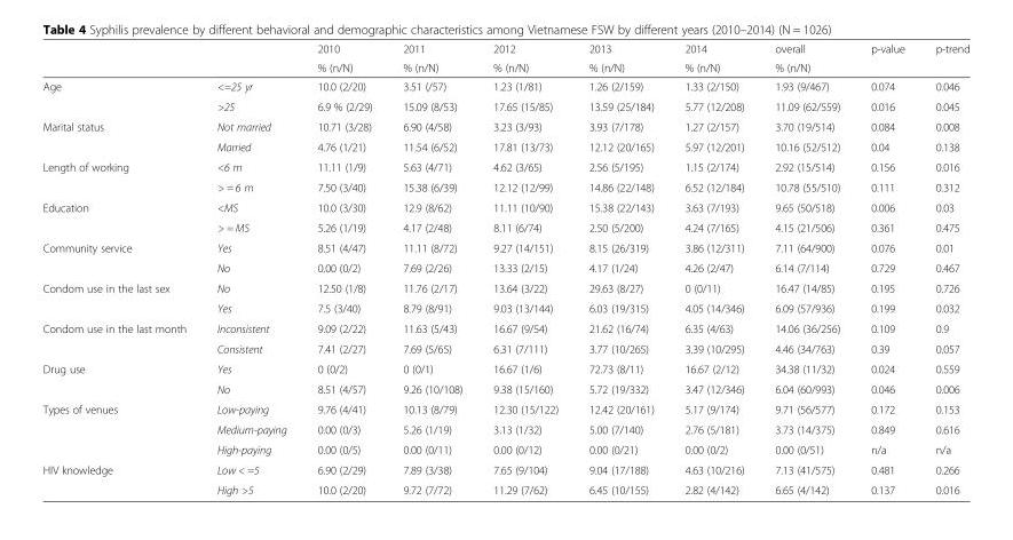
<table><thead><tr><td rowspan="2"></td><td rowspan="2"></td><td rowspan="2">2010 % (n/N)</td><td rowspan="2">2011 % (n/N)</td><td rowspan="2">2012 % (n/N)</td><td rowspan="2">2013 % (n/N)</td><td rowspan="2">2014 % (n/N)</td><td rowspan="2">overall % (n/N)</td><td rowspan="2">p-value</td><td rowspan="2">p-trend</td></tr><tr></tr></thead><tbody><tr><td rowspan="2">Age</td><td>&lt;=25 yr</td><td>10.0 (2/20)</td><td>3.51 (/57)</td><td>1.23 (1/81)</td><td>1.26 (2/159)</td><td>1.33 (2/150)</td><td>1.93 (9/467)</td><td>0.074</td><td>0.046</td></tr><tr><td>&gt;25</td><td>6.9 % (2/29)</td><td>15.09 (8/53)</td><td>17.65 (15/85)</td><td>13.59 (25/184)</td><td>5.77 (12/208)</td><td>11.09 (62/559)</td><td>0.016</td><td>0.045</td></tr><tr><td rowspan="2">Marital status</td><td>Not married</td><td>10.71 (3/28)</td><td>6.90 (4/58)</td><td>3.23 (3/93)</td><td>3.93 (7/178)</td><td>1.27 (2/157)</td><td>3.70 (19/514)</td><td>0.084</td><td>0.008</td></tr><tr><td>Married</td><td>4.76 (1/21)</td><td>11.54 (6/52)</td><td>17.81 (13/73)</td><td>12.12 (20/165)</td><td>5.97 (12/201)</td><td>10.16 (52/512)</td><td>0.04</td><td>0.138</td></tr><tr><td rowspan="2">Length of working</td><td>&lt;6 m</td><td>11.11 (1/9)</td><td>5.63 (4/71)</td><td>4.62 (3/65)</td><td>2.56 (5/195)</td><td>1.15 (2/174)</td><td>2.92 (15/514)</td><td>0.156</td><td>0.016</td></tr><tr><td>&gt; = 6 m</td><td>7.50 (3/40)</td><td>15.38 (6/39)</td><td>12.12 (12/99)</td><td>14.86 (22/148)</td><td>6.52 (12/184)</td><td>10.78 (55/510)</td><td>0.111</td><td>0.312</td></tr><tr><td rowspan="2">Education</td><td>&lt;MS</td><td>10.0 (3/30)</td><td>12.9 (8/62)</td><td>11.11 (10/90)</td><td>15.38 (22/143)</td><td>3.63 (7/193)</td><td>9.65 (50/518)</td><td>0.006</td><td>0.03</td></tr><tr><td>&gt; = MS</td><td>5.26 (1/19)</td><td>4.17 (2/48)</td><td>8.11 (6/74)</td><td>2.50 (5/200)</td><td>4.24 (7/165)</td><td>4.15 (21/506)</td><td>0.361</td><td>0.475</td></tr><tr><td rowspan="2">Community service</td><td>Yes</td><td>8.51 (4/47)</td><td>11.11 (8/72)</td><td>9.27 (14/151)</td><td>8.15 (26/319)</td><td>3.86 (12/311)</td><td>7.11 (64/900)</td><td>0.076</td><td>0.01</td></tr><tr><td>No</td><td>0.00 (0/2)</td><td>7.69 (2/26)</td><td>13.33 (2/15)</td><td>4.17 (1/24)</td><td>4.26 (2/47)</td><td>6.14 (7/114)</td><td>0.729</td><td>0.467</td></tr><tr><td rowspan="2">Condom use in the last sex</td><td>No</td><td>12.50 (1/8)</td><td>11.76 (2/17)</td><td>13.64 (3/22)</td><td>29.63 (8/27)</td><td>0 (0/11)</td><td>16.47 (14/85)</td><td>0.195</td><td>0.726</td></tr><tr><td>Yes</td><td>7.5 (3/40)</td><td>8.79 (8/91)</td><td>9.03 (13/144)</td><td>6.03 (19/315)</td><td>4.05 (14/346)</td><td>6.09 (57/936)</td><td>0.199</td><td>0.032</td></tr><tr><td rowspan="2">Condom use in the last month</td><td>Inconsistent</td><td>9.09 (2/22)</td><td>11.63 (5/43)</td><td>16.67 (9/54)</td><td>21.62 (16/74)</td><td>6.35 (4/63)</td><td>14.06 (36/256)</td><td>0.109</td><td>0.9</td></tr><tr><td>Consistent</td><td>7.41 (2/27)</td><td>7.69 (5/65)</td><td>6.31 (7/111)</td><td>3.77 (10/265)</td><td>3.39 (10/295)</td><td>4.46 (34/763)</td><td>0.39</td><td>0.057</td></tr><tr><td rowspan="2">Drug use</td><td>Yes</td><td>0 (0/2)</td><td>0 (0/1)</td><td>16.67 (1/6)</td><td>72.73 (8/11)</td><td>16.67 (2/12)</td><td>34.38 (11/32)</td><td>0.024</td><td>0.559</td></tr><tr><td>No</td><td>8.51 (4/57)</td><td>9.26 (10/108)</td><td>9.38 (15/160)</td><td>5.72 (19/332)</td><td>3.47 (12/346)</td><td>6.04 (60/993)</td><td>0.046</td><td>0.006</td></tr><tr><td rowspan="3">Types of venues</td><td>Low-paying</td><td>9.76 (4/41)</td><td>10.13 (8/79)</td><td>12.30 (15/122)</td><td>12.42 (20/161)</td><td>5.17 (9/174)</td><td>9.71 (56/577)</td><td>0.172</td><td>0.153</td></tr><tr><td>Medium-paying</td><td>0.00 (0/3)</td><td>5.26 (1/19)</td><td>3.13 (1/32)</td><td>5.00 (7/140)</td><td>2.76 (5/181)</td><td>3.73 (14/375)</td><td>0.849</td><td>0.616</td></tr><tr><td>High-paying</td><td>0.00 (0/5)</td><td>0.00 (0/11)</td><td>0.00 (0/12)</td><td>0.00 (0/21)</td><td>0.00 (0/2)</td><td>0.00 (0/51)</td><td>n/a</td><td>n/a</td></tr><tr><td rowspan="2">HIV knowledge</td><td>Low &lt; =5</td><td>6.90 (2/29)</td><td>7.89 (3/38)</td><td>7.65 (9/104)</td><td>9.04 (17/188)</td><td>4.63 (10/216)</td><td>7.13 (41/575)</td><td>0.481</td><td>0.266</td></tr><tr><td>High &gt;5</td><td>10.0 (2/20)</td><td>9.72 (7/72)</td><td>11.29 (7/62)</td><td>6.45 (10/155)</td><td>2.82 (4/142)</td><td>6.65 (4/142)</td><td>0.137</td><td>0.016</td></tr></tbody></table>